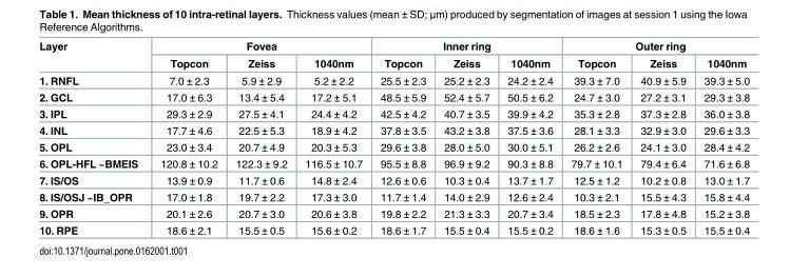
<table><thead><tr><td rowspan="2">Layer</td><td colspan="3">Fovea</td><td colspan="3">Inner ring</td><td colspan="3">Outer ring</td></tr><tr><td>Topcon</td><td>Zeiss</td><td>1040nm</td><td>Topcon</td><td>Zeiss</td><td>1040nm</td><td>Topcon</td><td>Zeiss</td><td>1040nm</td></tr></thead><tbody><tr><td>1. RNFL</td><td>7.0 ± 2.3</td><td>5.9 ± 2.9</td><td>5.2 ± 2.2</td><td>25.5 ± 2.3</td><td>25.2 ± 2.3</td><td>24.2 ± 2.4</td><td>39.3 ± 7.0</td><td>40.9 ± 5.9</td><td>39.3 ± 5.0</td></tr><tr><td>2. GCL</td><td>17.0 ± 6.3</td><td>13.4 ± 5.4</td><td>17.2 ± 5.1</td><td>48.5 ± 5.9</td><td>52.4 ± 5.7</td><td>50.5 ± 6.2</td><td>24.7 ± 3.0</td><td>27.2 ± 3.1</td><td>29.3 ± 3.8</td></tr><tr><td>3. IPL</td><td>29.3 ± 2.9</td><td>27.5 ± 4.1</td><td>24.4 ± 4.2</td><td>42.5 ± 4.2</td><td>40.7 ± 3.5</td><td>39.9 ± 4.2</td><td>35.3 ± 2.8</td><td>37.3 ± 2.8</td><td>36.0 ± 3.8</td></tr><tr><td>4. INL</td><td>17.7 ± 4.6</td><td>22.5 ± 5.3</td><td>18.9 ± 4.2</td><td>37.8 ± 3.5</td><td>43.2 ± 3.8</td><td>37.5 ± 3.6</td><td>28.1 ± 3.3</td><td>32.9 ± 3.0</td><td>29.6 ± 3.3</td></tr><tr><td>5. OPL</td><td>23.0 ± 3.4</td><td>20.7 ± 4.9</td><td>20.3 ± 5.3</td><td>29.6 ± 3.8</td><td>28.0 ± 5.0</td><td>30.0 ± 5.1</td><td>26.2 ± 2.6</td><td>24.1 ± 3.0</td><td>28.4 ± 4.2</td></tr><tr><td>6. OPL-HFL ~BMEIS</td><td>120.8 ± 10.2</td><td>122.3 ± 9.2</td><td>116.5 ± 10.7</td><td>95.5 ± 8.8</td><td>96.9 ± 9.2</td><td>90.3 ± 8.8</td><td>79.7 ± 10.1</td><td>79.4 ± 6.4</td><td>71.6 ± 6.8</td></tr><tr><td>7. IS/OS</td><td>13.9 ± 0.9</td><td>11.7 ± 0.6</td><td>14.8 ± 2.4</td><td>12.6 ± 0.6</td><td>10.3 ± 0.4</td><td>13.7 ± 1.7</td><td>12.5 ± 1.2</td><td>10.2 ± 0.8</td><td>13.0 ± 1.7</td></tr><tr><td>8. IS/OSJ ~IB_OPR</td><td>17.0 ± 1.8</td><td>19.7 ± 2.2</td><td>17.3 ± 3.0</td><td>11.7 ± 1.4</td><td>14.0 ± 2.9</td><td>12.6 ± 2.4</td><td>10.3 ± 2.1</td><td>15.5 ± 4.3</td><td>15.8 ± 4.4</td></tr><tr><td>9. OPR</td><td>20.1 ± 2.6</td><td>20.7 ± 3.0</td><td>20.6 ± 3.8</td><td>19.8 ± 2.2</td><td>21.3 ± 3.3</td><td>20.7 ± 3.4</td><td>18.5 ± 2.3</td><td>17.8 ± 4.8</td><td>15.2 ± 3.8</td></tr><tr><td>10. RPE</td><td>18.6 ± 2.1</td><td>15.5 ± 0.5</td><td>15.6 ± 0.2</td><td>18.6 ± 1.7</td><td>15.5 ± 0.4</td><td>15.5 ± 0.2</td><td>18.6 ± 1.6</td><td>15.3 ± 0.5</td><td>15.5 ± 0.4</td></tr></tbody></table>